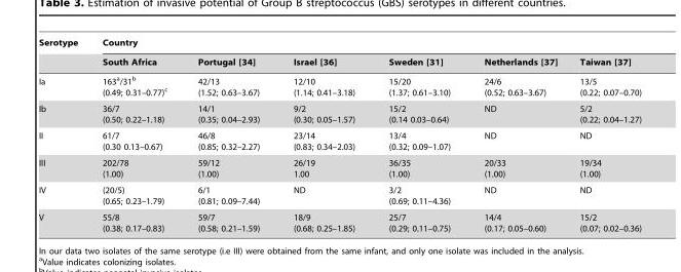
<table><thead><tr><td rowspan="2">Serotype</td><td colspan="6">Country</td></tr><tr><td>South Africa</td><td>Portugal [34]</td><td>Israel [36]</td><td>Sweden [31]</td><td>Netherlands [37]</td><td>Taiwan [37]</td></tr></thead><tbody><tr><td>Ia</td><td>163<sup>a</sup>/31<sup>b</sup> (0.49; 0.31–0.77)<sup>c</sup></td><td>42/13 (1.52; 0.63–3.67)</td><td>12/10 (1.14; 0.41–3.18)</td><td>15/20 (1.37; 0.61–3.10)</td><td>24/6 (0.52; 0.63–3.67)</td><td>13/5 (0.22; 0.07–0.70)</td></tr><tr><td>Ib</td><td>36/7 (0.50; 0.22–1.18)</td><td>14/1 (0.35; 0.04–2.93)</td><td>9/2 (0.30; 0.05–1.57)</td><td>15/2 (0.14 0.03–0.64)</td><td>ND</td><td>5/2 (0.22; 0.04–1.27)</td></tr><tr><td>II</td><td>61/7 (0.30 0.13–0.67)</td><td>46/8 (0.85; 0.32–2.27)</td><td>23/14 (0.83; 0.34–2.03)</td><td>13/4 (0.32; 0.09–1.07)</td><td>ND</td><td>ND</td></tr><tr><td>III</td><td>202/78 (1.00)</td><td>59/12 (1.00)</td><td>26/19 1.00</td><td>36/35 (1.00)</td><td>20/33 (1.00)</td><td>19/34 (1.00)</td></tr><tr><td>IV</td><td>(20/5) (0.65; 0.23–1.79)</td><td>6/1 (0.81; 0.09–7.44)</td><td>ND</td><td>3/2 (0.69; 0.11–4.36)</td><td>ND</td><td>ND</td></tr><tr><td>V</td><td>55/8 (0.38; 0.17–0.83)</td><td>59/7 (0.58; 0.21–1.59)</td><td>18/9 (0.68; 0.25–1.85)</td><td>25/7 (0.29; 0.11–0.75)</td><td>14/4 (0.17; 0.05–0.60)</td><td>15/2 (0.07; 0.02–0.36)</td></tr></tbody></table>